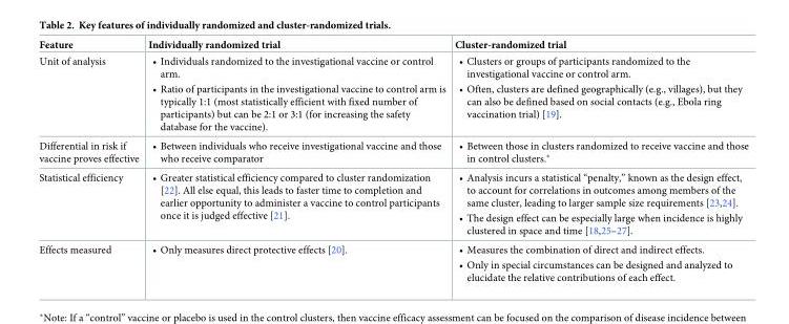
<table><thead><tr><td>Feature</td><td>Individually randomized trial</td><td>Cluster-randomized trial</td></tr></thead><tbody><tr><td>Unit of analysis</td><td>• Individuals randomized to the investigational vaccine or control arm. • Ratio of participants in the investigational vaccine to control arm is typically 1:1 (most statistically efficient with fixed number of participants) but can be 2:1 or 3:1 (for increasing the safety database for the vaccine).</td><td>• Clusters or groups of participants randomized to the investigational vaccine or control arm. • Often, clusters are defined geographically (e.g., villages), but they can also be defined based on social contacts (e.g., Ebola ring vaccination trial) [19].</td></tr><tr><td>Differential in risk if vaccine proves effective</td><td>• Between individuals who receive investigational vaccine and those who receive comparator</td><td>• Between those in clusters randomized to receive vaccine and those in control clusters.�</td></tr><tr><td>Statistical efficiency</td><td>• Greater statistical efficiency compared to cluster randomization [22]. All else equal, this leads to faster time to completion and earlier opportunity to administer a vaccine to control participants once it is judged effective [21].</td><td>• Analysis incurs a statistical “penalty,” known as the design effect, to account for correlations in outcomes among members of the same cluster, leading to larger sample size requirements [23,24]. • The design effect can be especially large when incidence is highly clustered in space and time [18,25–27].</td></tr><tr><td>Effects measured</td><td>• Only measures direct protective effects [20].</td><td>• Measures the combination of direct and indirect effects. • Only in special circumstances can be designed and analyzed to elucidate the relative contributions of each effect.</td></tr></tbody></table>